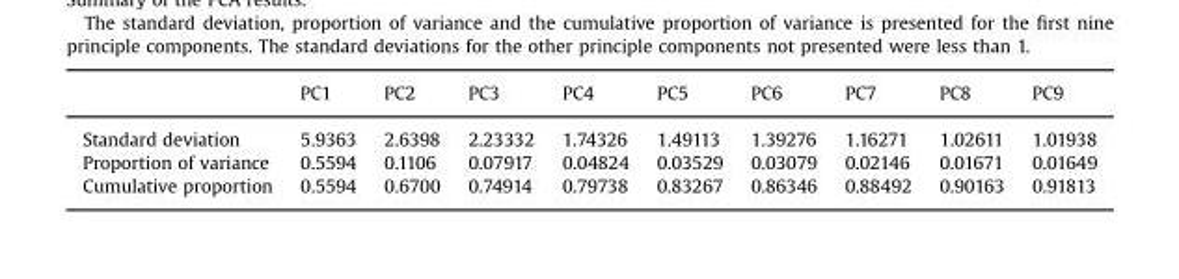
<table><thead><tr><td></td><td>PC1</td><td>PC2</td><td>PC3</td><td>PC4</td><td>PC5</td><td>PC6</td><td>PC7</td><td>PC8</td><td>PC9</td></tr></thead><tbody><tr><td>Standard deviation</td><td>5.9363</td><td>2.6398</td><td>2.23332</td><td>1.74326</td><td>1.49113</td><td>1.39276</td><td>1.16271</td><td>1.02611</td><td>1.01938</td></tr><tr><td>Proportion of variance</td><td>0.5594</td><td>0.1106</td><td>0.07917</td><td>0.04824</td><td>0.03529</td><td>0.03079</td><td>0.02146</td><td>0.01671</td><td>0.01649</td></tr><tr><td>Cumulative proportion</td><td>0.5594</td><td>0.6700</td><td>0.74914</td><td>0.79738</td><td>0.83267</td><td>0.86346</td><td>0.88492</td><td>0.90163</td><td>0.91813</td></tr></tbody></table>